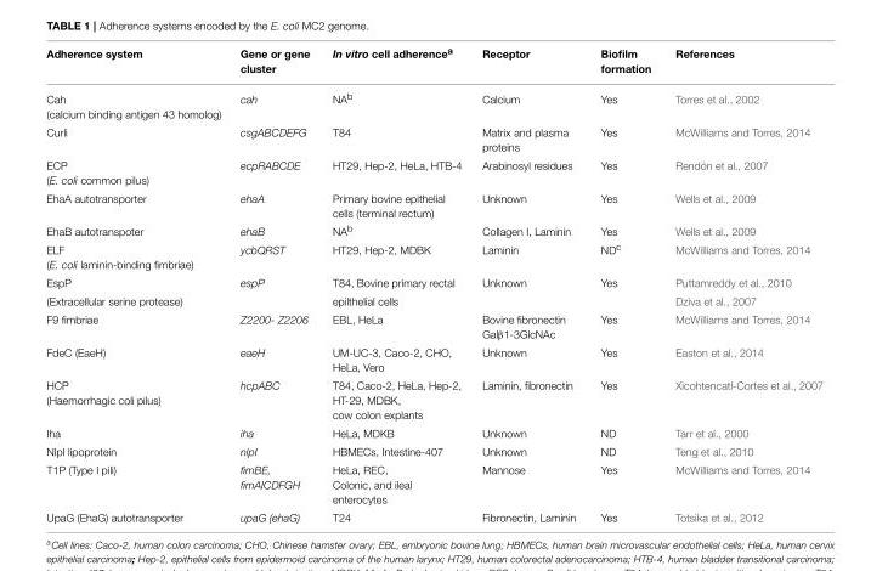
<table><thead><tr><td>Adherence system</td><td>Gene or gene cluster</td><td>In vitro cell adherence<sup>a</sup></td><td>Receptor</td><td>Biofilm formation</td><td>References</td></tr></thead><tbody><tr><td>Cah (calcium binding antigen 43 homolog)</td><td>cah</td><td>NA<sup>b</sup></td><td>Calcium</td><td>Yes</td><td>Torres et al., 2002</td></tr><tr><td>Curli</td><td>csgABCDEFG</td><td>T84</td><td>Matrix and plasma proteins</td><td>Yes</td><td>McWilliams and Torres, 2014</td></tr><tr><td>ECP (E. coli common pilus)</td><td>ecpRABCDE</td><td>HT29, Hep-2, HeLa, HTB-4</td><td>Arabinosyl residues</td><td>Yes</td><td>Rendón et al., 2007</td></tr><tr><td>EhaA autotransporter</td><td>ehaA</td><td>Primary bovine epithelial cells (terminal rectum)</td><td>Unknown</td><td>Yes</td><td>Wells et al., 2009</td></tr><tr><td>EhaB autotranspoter</td><td>ehaB</td><td>NA<sup>b</sup></td><td>Collagen I, Laminin</td><td>Yes</td><td>Wells et al., 2009</td></tr><tr><td>ELF (E. coli laminin-binding fimbriae)</td><td>ycbQRST</td><td>HT29, Hep-2, MDBK</td><td>Laminin</td><td>ND<sup>c</sup></td><td>McWilliams and Torres, 2014</td></tr><tr><td>EspP</td><td>espP</td><td>T84, Bovine primary rectal</td><td>Unknown</td><td>Yes</td><td>Puttamreddy et al., 2010</td></tr><tr><td colspan="2">(Extracellular serine protease)</td><td>epilthelial cells</td><td></td><td></td><td>Dziva et al., 2007</td></tr><tr><td>F9 fimbriae</td><td>Z2200- Z2206</td><td>EBL, HeLa</td><td>Bovine fibronectin Galβ1-3GlcNAc</td><td>Yes</td><td>McWilliams and Torres, 2014</td></tr><tr><td>FdeC (EaeH)</td><td>eaeH</td><td>UM-UC-3, Caco-2, CHO, HeLa, Vero</td><td>Unknown</td><td>Yes</td><td>Easton et al., 2014</td></tr><tr><td>HCP (Haemorrhagic coli pilus)</td><td>hcpABC</td><td>T84, Caco-2, HeLa, Hep-2, HT-29, MDBK, cow colon explants</td><td>Laminin, fibronectin</td><td>Yes</td><td>Xicohtencatl-Cortes et al., 2007</td></tr><tr><td>Iha</td><td>iha</td><td>HeLa, MDKB</td><td>Unknown</td><td>ND</td><td>Tarr et al., 2000</td></tr><tr><td>NlpI lipoprotein</td><td>nlpI</td><td>HBMECs, Intestine-407</td><td>Unknown</td><td>ND</td><td>Teng et al., 2010</td></tr><tr><td>T1P (Type I pili)</td><td>fimBE, fimAICDFGH</td><td>HeLa, REC, Colonic, and ileal enterocytes</td><td>Mannose</td><td>Yes</td><td>McWilliams and Torres, 2014</td></tr><tr><td>UpaG (EhaG) autotransporter</td><td>upaG (ehaG)</td><td>T24</td><td>Fibronectin, Laminin</td><td>Yes</td><td>Totsika et al., 2012</td></tr></tbody></table>